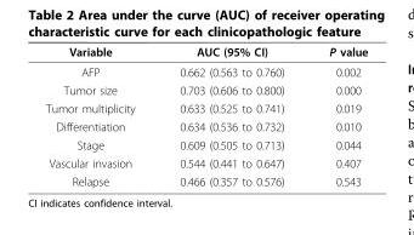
<table><thead><tr><td>Variable</td><td>AUC (95% CI)</td><td>P value</td></tr></thead><tbody><tr><td>AFP</td><td>0.662 (0.563 to 0.760)</td><td>0.002</td></tr><tr><td>Tumor size</td><td>0.703 (0.606 to 0.800)</td><td>0.000</td></tr><tr><td>Tumor multiplicity</td><td>0.633 (0.525 to 0.741)</td><td>0.019</td></tr><tr><td>Differentiation</td><td>0.634 (0.536 to 0.732)</td><td>0.010</td></tr><tr><td>Stage</td><td>0.609 (0.505 to 0.713)</td><td>0.044</td></tr><tr><td>Vascular invasion</td><td>0.544 (0.441 to 0.647)</td><td>0.407</td></tr><tr><td>Relapse</td><td>0.466 (0.357 to 0.576)</td><td>0.543</td></tr></tbody></table>